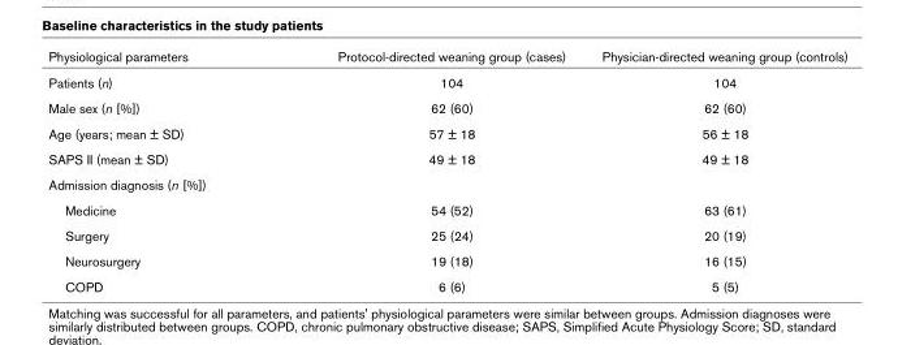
<table><thead><tr><td>Physiological parameters</td><td>Protocol-directed weaning group (cases)</td><td>Physician-directed weaning group (controls)</td></tr></thead><tbody><tr><td>Patients (n)</td><td>104</td><td>104</td></tr><tr><td>Male sex (n [%])</td><td>62 (60)</td><td>62 (60)</td></tr><tr><td>Age (years; mean ± SD)</td><td>57 ± 18</td><td>56 ± 18</td></tr><tr><td>SAPS II (mean ± SD)</td><td>49 ± 18</td><td>49 ± 18</td></tr><tr><td colspan="3">Admission diagnosis (n [%])</td></tr><tr><td>Medicine</td><td>54 (52)</td><td>63 (61)</td></tr><tr><td>Surgery</td><td>25 (24)</td><td>20 (19)</td></tr><tr><td>Neurosurgery</td><td>19 (18)</td><td>16 (15)</td></tr><tr><td>COPD</td><td>6 (6)</td><td>5 (5)</td></tr></tbody></table>